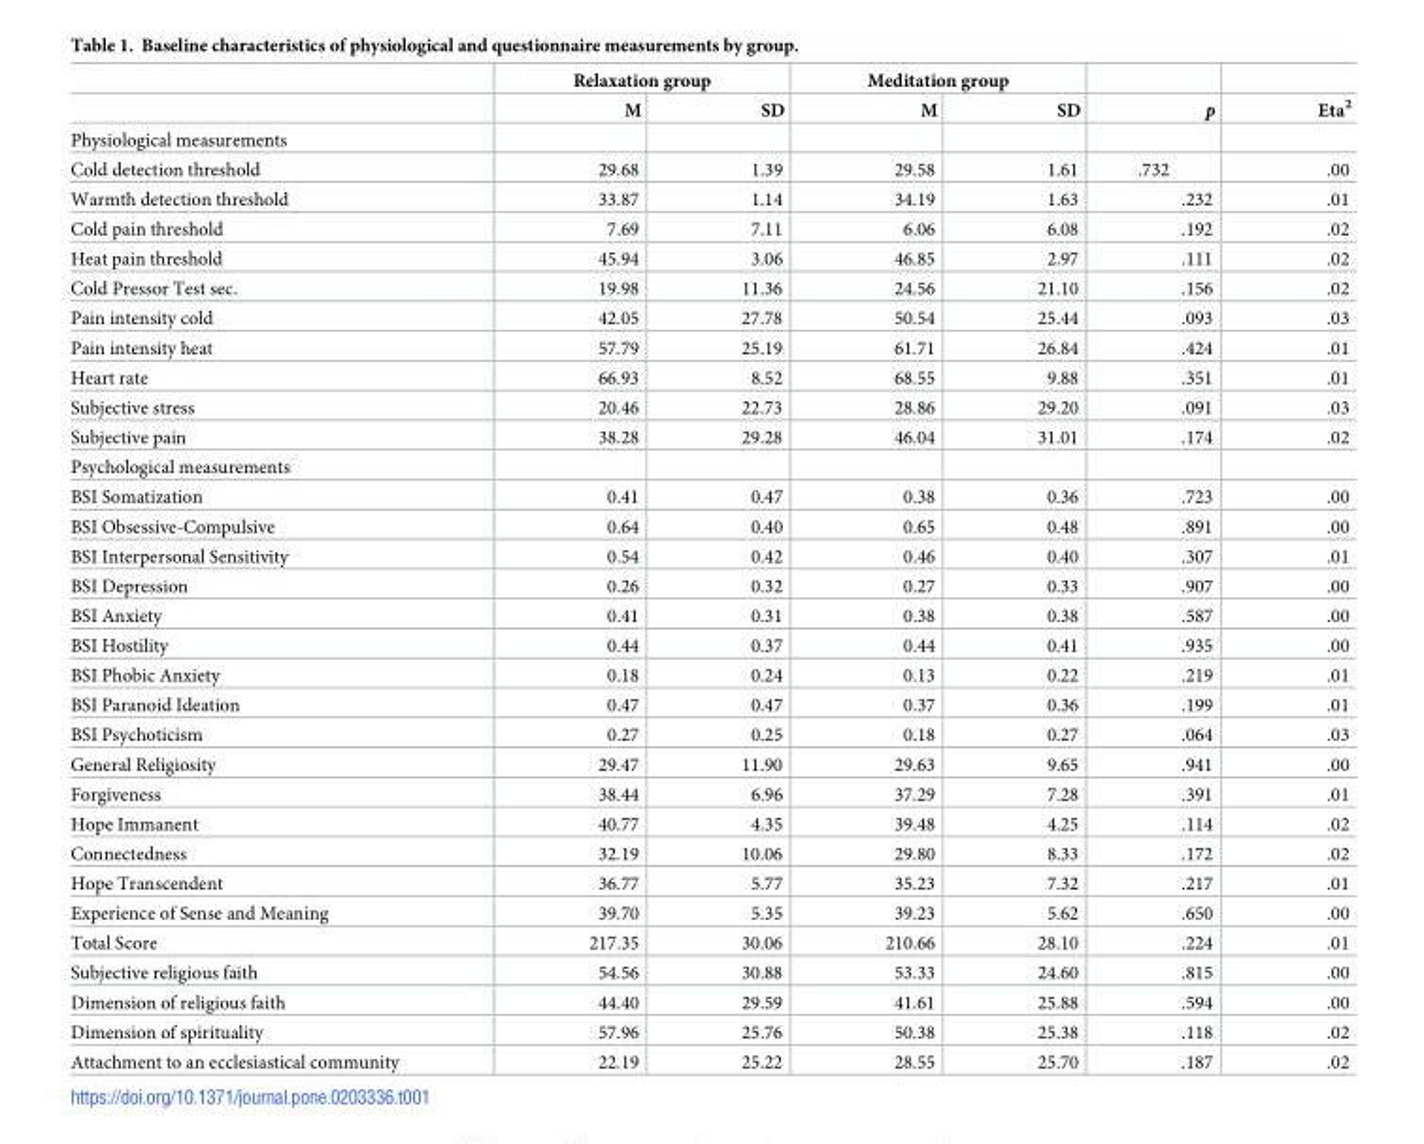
<table><thead><tr><td rowspan="2"></td><td colspan="2">Relaxation group</td><td colspan="2">Meditation group</td><td rowspan="2">p</td><td rowspan="2">Eta<sup>2</sup></td></tr><tr><td>M</td><td>SD</td><td>M</td><td>SD</td></tr></thead><tbody><tr><td colspan="7">Physiological measurements</td></tr><tr><td>Cold detection threshold</td><td>29.68</td><td>1.39</td><td>29.58</td><td>1.61</td><td>.732</td><td>.00</td></tr><tr><td>Warmth detection threshold</td><td>33.87</td><td>1.14</td><td>34.19</td><td>1.63</td><td>.232</td><td>.01</td></tr><tr><td>Cold pain threshold</td><td>7.69</td><td>7.11</td><td>6.06</td><td>6.08</td><td>.192</td><td>.02</td></tr><tr><td>Heat pain threshold</td><td>45.94</td><td>3.06</td><td>46.85</td><td>2.97</td><td>.111</td><td>.02</td></tr><tr><td>Cold Pressor Test sec.</td><td>19.98</td><td>11.36</td><td>24.56</td><td>21.10</td><td>.156</td><td>.02</td></tr><tr><td>Pain intensity cold</td><td>42.05</td><td>27.78</td><td>50.54</td><td>25.44</td><td>.093</td><td>.03</td></tr><tr><td>Pain intensity heat</td><td>57.79</td><td>25.19</td><td>61.71</td><td>26.84</td><td>.424</td><td>.01</td></tr><tr><td>Heart rate</td><td>66.93</td><td>8.52</td><td>68.55</td><td>9.88</td><td>.351</td><td>.01</td></tr><tr><td>Subjective stress</td><td>20.46</td><td>22.73</td><td>28.86</td><td>29.20</td><td>.091</td><td>.03</td></tr><tr><td>Subjective pain</td><td>38.28</td><td>29.28</td><td>46.04</td><td>31.01</td><td>.174</td><td>.02</td></tr><tr><td colspan="7">Psychological measurements</td></tr><tr><td>BSI Somatization</td><td>0.41</td><td>0.47</td><td>0.38</td><td>0.36</td><td>.723</td><td>.00</td></tr><tr><td>BSI Obsessive-Compulsive</td><td>0.64</td><td>0.40</td><td>0.65</td><td>0.48</td><td>.891</td><td>.00</td></tr><tr><td>BSI Interpersonal Sensitivity</td><td>0.54</td><td>0.42</td><td>0.46</td><td>0.40</td><td>.307</td><td>.01</td></tr><tr><td>BSI Depression</td><td>0.26</td><td>0.32</td><td>0.27</td><td>0.33</td><td>.907</td><td>.00</td></tr><tr><td>BSI Anxiety</td><td>0.41</td><td>0.31</td><td>0.38</td><td>0.38</td><td>.587</td><td>.00</td></tr><tr><td>BSI Hostility</td><td>0.44</td><td>0.37</td><td>0.44</td><td>0.41</td><td>.935</td><td>.00</td></tr><tr><td>BSI Phobic Anxiety</td><td>0.18</td><td>0.24</td><td>0.13</td><td>0.22</td><td>.219</td><td>.01</td></tr><tr><td>BSI Paranoid Ideation</td><td>0.47</td><td>0.47</td><td>0.37</td><td>0.36</td><td>.199</td><td>.01</td></tr><tr><td>BSI Psychoticism</td><td>0.27</td><td>0.25</td><td>0.18</td><td>0.27</td><td>.064</td><td>.03</td></tr><tr><td>General Religiosity</td><td>29.47</td><td>11.90</td><td>29.63</td><td>9.65</td><td>.941</td><td>.00</td></tr><tr><td>Forgiveness</td><td>38.44</td><td>6.96</td><td>37.29</td><td>7.28</td><td>.391</td><td>.01</td></tr><tr><td>Hope Immanent</td><td>40.77</td><td>4.35</td><td>39.48</td><td>4.25</td><td>.114</td><td>.02</td></tr><tr><td>Connectedness</td><td>32.19</td><td>10.06</td><td>29.80</td><td>8.33</td><td>.172</td><td>.02</td></tr><tr><td>Hope Transcendent</td><td>36.77</td><td>5.77</td><td>35.23</td><td>7.32</td><td>.217</td><td>.01</td></tr><tr><td>Experience of Sense and Meaning</td><td>39.70</td><td>5.35</td><td>39.23</td><td>5.62</td><td>.650</td><td>.00</td></tr><tr><td>Total Score</td><td>217.35</td><td>30.06</td><td>210.66</td><td>28.10</td><td>.224</td><td>.01</td></tr><tr><td>Subjective religious faith</td><td>54.56</td><td>30.88</td><td>53.33</td><td>24.60</td><td>.815</td><td>.00</td></tr><tr><td>Dimension of religious faith</td><td>44.40</td><td>29.59</td><td>41.61</td><td>25.88</td><td>.594</td><td>.00</td></tr><tr><td>Dimension of spirituality</td><td>57.96</td><td>25.76</td><td>50.38</td><td>25.38</td><td>.118</td><td>.02</td></tr><tr><td>Attachment to an ecclesiastical community</td><td>22.19</td><td>25.22</td><td>28.55</td><td>25.70</td><td>.187</td><td>.02</td></tr></tbody></table>